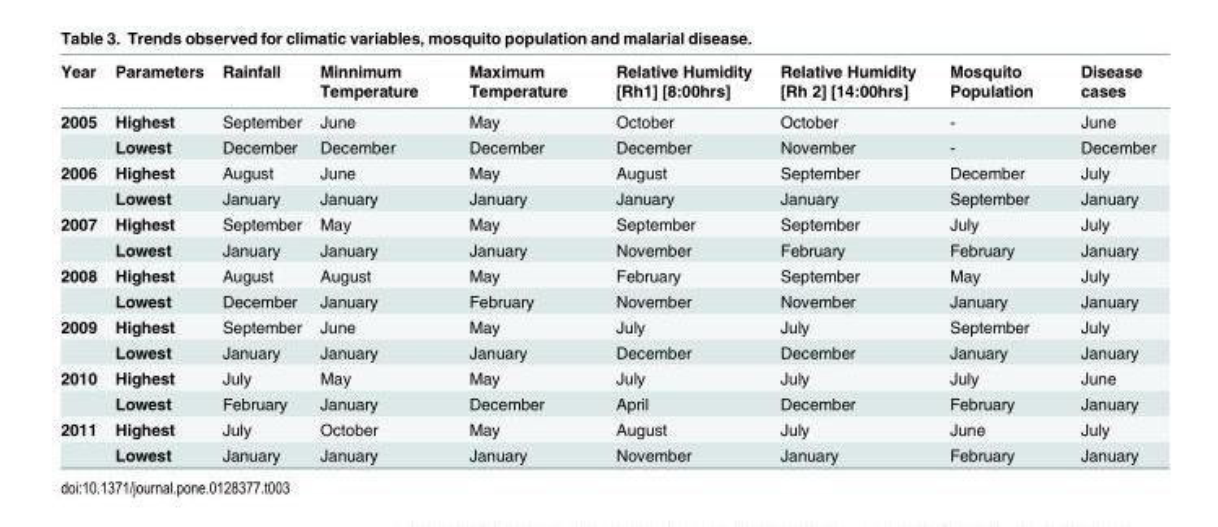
<table><thead><tr><td>Year</td><td>Parameters</td><td>Rainfall</td><td>Minnimum Temperature</td><td>Maximum Temperature</td><td>Relative Humidity [Rh1] [8:00hrs]</td><td>Relative Humidity [Rh 2] [14:00hrs]</td><td>Mosquito Population</td><td>Disease cases</td></tr></thead><tbody><tr><td rowspan="2">2005</td><td>Highest</td><td>September</td><td>June</td><td>May</td><td>October</td><td>October</td><td>-</td><td>June</td></tr><tr><td>Lowest</td><td>December</td><td>December</td><td>December</td><td>December</td><td>November</td><td>-</td><td>December</td></tr><tr><td rowspan="2">2006</td><td>Highest</td><td>August</td><td>June</td><td>May</td><td>August</td><td>September</td><td>December</td><td>July</td></tr><tr><td>Lowest</td><td>January</td><td>January</td><td>January</td><td>January</td><td>January</td><td>September</td><td>January</td></tr><tr><td rowspan="2">2007</td><td>Highest</td><td>September</td><td>May</td><td>May</td><td>September</td><td>September</td><td>July</td><td>July</td></tr><tr><td>Lowest</td><td>January</td><td>January</td><td>January</td><td>November</td><td>February</td><td>February</td><td>January</td></tr><tr><td rowspan="2">2008</td><td>Highest</td><td>August</td><td>August</td><td>May</td><td>February</td><td>September</td><td>May</td><td>July</td></tr><tr><td>Lowest</td><td>December</td><td>January</td><td>February</td><td>November</td><td>November</td><td>January</td><td>January</td></tr><tr><td rowspan="2">2009</td><td>Highest</td><td>September</td><td>June</td><td>May</td><td>July</td><td>July</td><td>September</td><td>July</td></tr><tr><td>Lowest</td><td>January</td><td>January</td><td>January</td><td>December</td><td>December</td><td>January</td><td>January</td></tr><tr><td rowspan="2">2010</td><td>Highest</td><td>July</td><td>May</td><td>May</td><td>July</td><td>July</td><td>July</td><td>June</td></tr><tr><td>Lowest</td><td>February</td><td>January</td><td>December</td><td>April</td><td>December</td><td>February</td><td>January</td></tr><tr><td rowspan="2">2011</td><td>Highest</td><td>July</td><td>October</td><td>May</td><td>August</td><td>July</td><td>June</td><td>July</td></tr><tr><td>Lowest</td><td>January</td><td>January</td><td>January</td><td>November</td><td>January</td><td>February</td><td>January</td></tr></tbody></table>